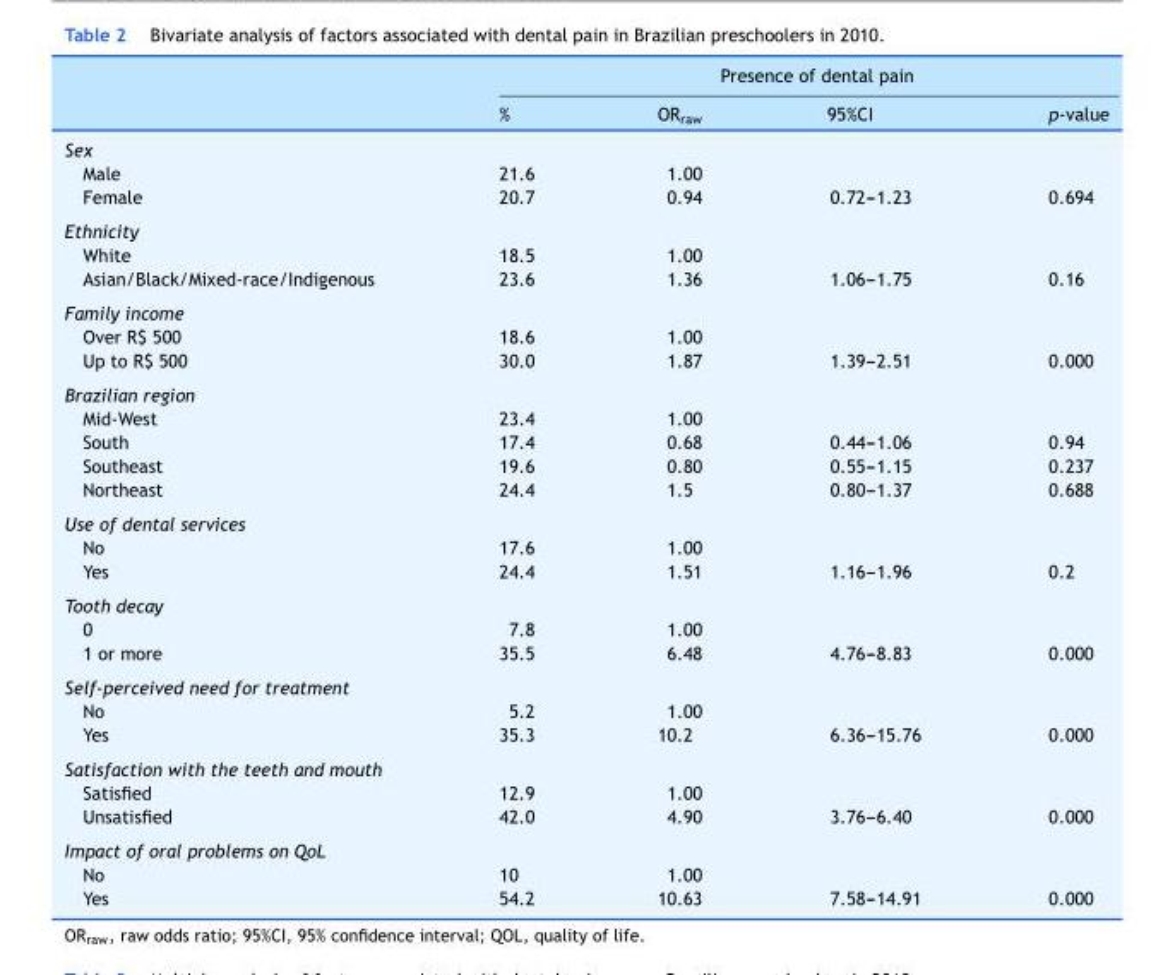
<table><thead><tr><td rowspan="2"></td><td colspan="4">Presence of dental pain</td></tr><tr><td>%</td><td>OR<sub>raw</sub></td><td>95%CI</td><td>p-value</td></tr></thead><tbody><tr><td colspan="5">Sex</td></tr><tr><td>Male</td><td>21.6</td><td>1.00</td><td></td><td></td></tr><tr><td>Female</td><td>20.7</td><td>0.94</td><td>0.72---1.23</td><td>0.694</td></tr><tr><td colspan="5">Ethnicity</td></tr><tr><td>White</td><td>18.5</td><td>1.00</td><td></td><td></td></tr><tr><td>Asian/Black/Mixed-race/Indigenous</td><td>23.6</td><td>1.36</td><td>1.06---1.75</td><td>0.16</td></tr><tr><td colspan="5">Family income</td></tr><tr><td>Over R$ 500</td><td>18.6</td><td>1.00</td><td></td><td></td></tr><tr><td>Up to R$ 500</td><td>30.0</td><td>1.87</td><td>1.39---2.51</td><td>0.000</td></tr><tr><td colspan="5">Brazilian region</td></tr><tr><td>Mid-West</td><td>23.4</td><td>1.00</td><td></td><td></td></tr><tr><td>South</td><td>17.4</td><td>0.68</td><td>0.44---1.06</td><td>0.94</td></tr><tr><td>Southeast</td><td>19.6</td><td>0.80</td><td>0.55---1.15</td><td>0.237</td></tr><tr><td>Northeast</td><td>24.4</td><td>1.5</td><td>0.80---1.37</td><td>0.688</td></tr><tr><td colspan="5">Use of dental services</td></tr><tr><td>No</td><td>17.6</td><td>1.00</td><td></td><td></td></tr><tr><td>Yes</td><td>24.4</td><td>1.51</td><td>1.16---1.96</td><td>0.2</td></tr><tr><td colspan="5">Tooth decay</td></tr><tr><td>0</td><td>7.8</td><td>1.00</td><td></td><td></td></tr><tr><td>1 or more</td><td>35.5</td><td>6.48</td><td>4.76---8.83</td><td>0.000</td></tr><tr><td colspan="5">Self-perceived need for treatment</td></tr><tr><td>No</td><td>5.2</td><td>1.00</td><td></td><td></td></tr><tr><td>Yes</td><td>35.3</td><td>10.2</td><td>6.36---15.76</td><td>0.000</td></tr><tr><td colspan="5">Satisfaction with the teeth and mouth</td></tr><tr><td>Satisfied</td><td>12.9</td><td>1.00</td><td></td><td></td></tr><tr><td>Unsatisfied</td><td>42.0</td><td>4.90</td><td>3.76---6.40</td><td>0.000</td></tr><tr><td colspan="5">Impact of oral problems on QoL</td></tr><tr><td>No</td><td>10</td><td>1.00</td><td></td><td></td></tr><tr><td>Yes</td><td>54.2</td><td>10.63</td><td>7.58---14.91</td><td>0.000</td></tr></tbody></table>